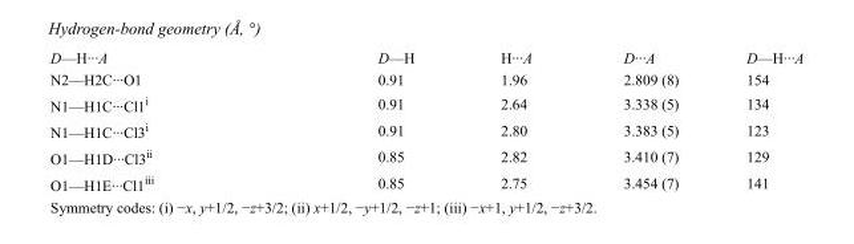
<table><tbody><tr><td>D—H···A</td><td>D—H</td><td>H···A</td><td>D···A</td><td>D—H···A</td></tr><tr><td>N2—H2C···O1</td><td>0.91</td><td>1.96</td><td>2.809 (8)</td><td>154</td></tr><tr><td>N1—H1C···Cl1<sup>i</sup></td><td>0.91</td><td>2.64</td><td>3.338 (5)</td><td>134</td></tr><tr><td>N1—H1C···Cl3<sup>i</sup></td><td>0.91</td><td>2.80</td><td>3.383 (5)</td><td>123</td></tr><tr><td>O1—H1D···Cl3<sup>ii</sup></td><td>0.85</td><td>2.82</td><td>3.410 (7)</td><td>129</td></tr><tr><td>O1—H1E···Cl1<sup>iii</sup></td><td>0.85</td><td>2.75</td><td>3.454 (7)</td><td>141</td></tr></tbody></table>